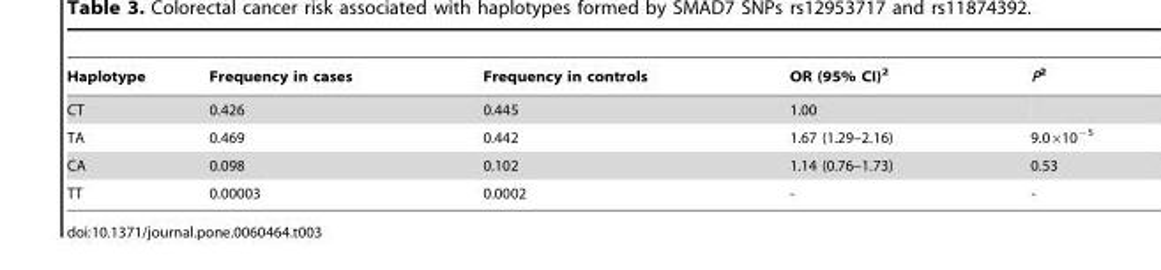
<table><thead><tr><td>Haplotype</td><td>Frequency in cases</td><td>Frequency in controls</td><td>OR (95% CI)<sup>2</sup></td><td>P<sup>2</sup></td></tr></thead><tbody><tr><td>CT</td><td>0.426</td><td>0.445</td><td>1.00</td><td></td></tr><tr><td>TA</td><td>0.469</td><td>0.442</td><td>1.67 (1.29–2.16)</td><td>9.0×10<sup>−5</sup></td></tr><tr><td>CA</td><td>0.098</td><td>0.102</td><td>1.14 (0.76–1.73)</td><td>0.53</td></tr><tr><td>TT</td><td>0.00003</td><td>0.0002</td><td>-</td><td>-</td></tr></tbody></table>